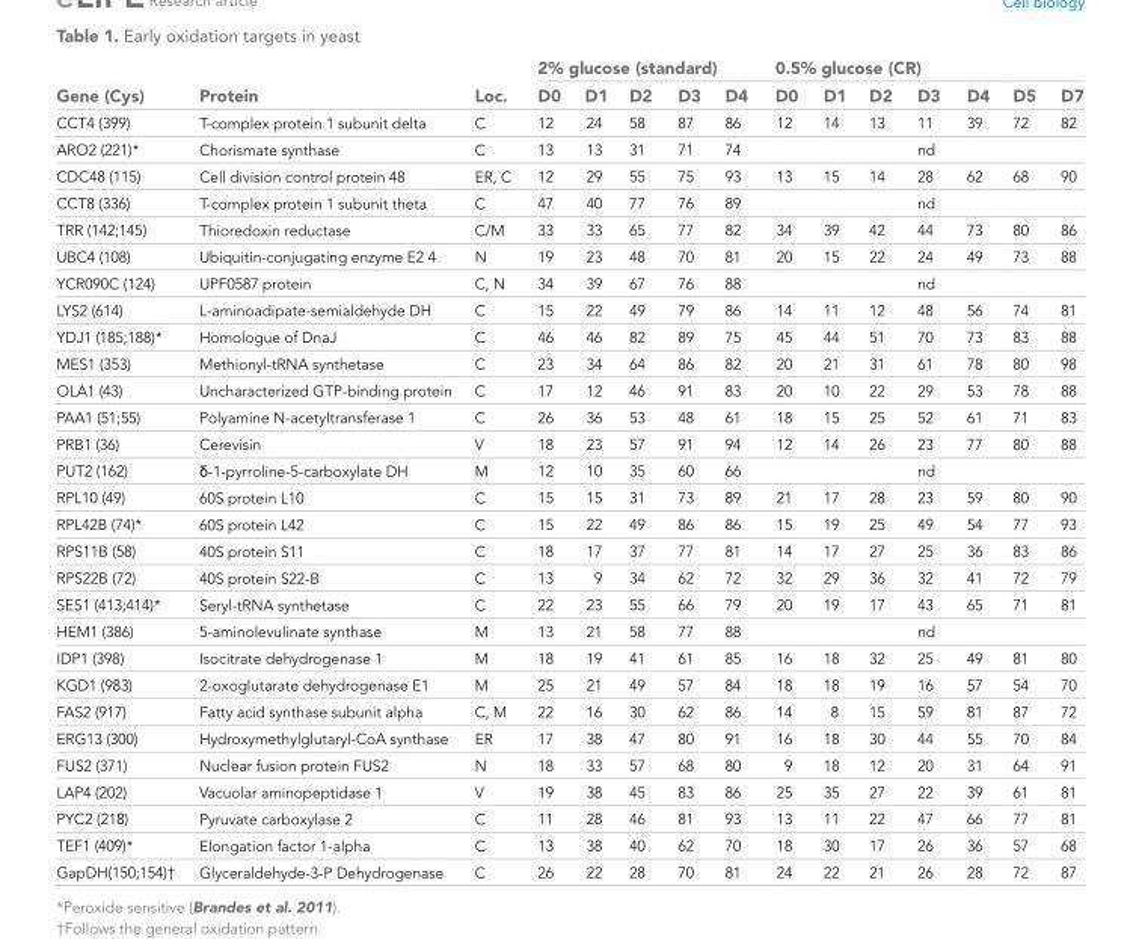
<table><thead><tr><td rowspan="2">Gene (Cys)</td><td rowspan="2">Protein</td><td rowspan="2">Loc.</td><td colspan="5">2% glucose (standard)</td><td colspan="7">0.5% glucose (CR)</td></tr><tr><td>D0</td><td>D1</td><td>D2</td><td>D3</td><td>D4</td><td>D0</td><td>D1</td><td>D2</td><td>D3</td><td>D4</td><td>D5</td><td>D7</td></tr></thead><tbody><tr><td>CCT4 (399)</td><td>T-complex protein 1 subunit delta</td><td>C</td><td>12</td><td>24</td><td>58</td><td>87</td><td>86</td><td>12</td><td>14</td><td>13</td><td>11</td><td>39</td><td>72</td><td>82</td></tr><tr><td>ARO2 (221)*</td><td>Chorismate synthase</td><td>C</td><td>13</td><td>13</td><td>31</td><td>71</td><td>74</td><td></td><td></td><td></td><td>nd</td><td></td><td></td><td></td></tr><tr><td>CDC48 (115)</td><td>Cell division control protein 48</td><td>ER, C</td><td>12</td><td>29</td><td>55</td><td>75</td><td>93</td><td>13</td><td>15</td><td>14</td><td>28</td><td>62</td><td>68</td><td>90</td></tr><tr><td>CCT8 (336)</td><td>T-complex protein 1 subunit theta</td><td>C</td><td>47</td><td>40</td><td>77</td><td>76</td><td>89</td><td></td><td></td><td></td><td>nd</td><td></td><td></td><td></td></tr><tr><td>TRR (142;145)</td><td>Thioredoxin reductase</td><td>C/M</td><td>33</td><td>33</td><td>65</td><td>77</td><td>82</td><td>34</td><td>39</td><td>42</td><td>44</td><td>73</td><td>80</td><td>86</td></tr><tr><td>UBC4 (108)</td><td>Ubiquitin-conjugating enzyme E2 4</td><td>N</td><td>19</td><td>23</td><td>48</td><td>70</td><td>81</td><td>20</td><td>15</td><td>22</td><td>24</td><td>49</td><td>73</td><td>88</td></tr><tr><td>YCR090C (124)</td><td>UPF0587 protein</td><td>C, N</td><td>34</td><td>39</td><td>67</td><td>76</td><td>88</td><td></td><td></td><td></td><td>nd</td><td></td><td></td><td></td></tr><tr><td>LYS2 (614)</td><td>L-aminoadipate-semialdehyde DH</td><td>C</td><td>15</td><td>22</td><td>49</td><td>79</td><td>86</td><td>14</td><td>11</td><td>12</td><td>48</td><td>56</td><td>74</td><td>81</td></tr><tr><td>YDJ1 (185;188)*</td><td>Homologue of DnaJ</td><td>C</td><td>46</td><td>46</td><td>82</td><td>89</td><td>75</td><td>45</td><td>44</td><td>51</td><td>70</td><td>73</td><td>83</td><td>88</td></tr><tr><td>MES1 (353)</td><td>Methionyl-tRNA synthetase</td><td>C</td><td>23</td><td>34</td><td>64</td><td>86</td><td>82</td><td>20</td><td>21</td><td>31</td><td>61</td><td>78</td><td>80</td><td>98</td></tr><tr><td>OLA1 (43)</td><td>Uncharacterized GTP-binding protein</td><td>C</td><td>17</td><td>12</td><td>46</td><td>91</td><td>83</td><td>20</td><td>10</td><td>22</td><td>29</td><td>53</td><td>78</td><td>88</td></tr><tr><td>PAA1 (51;55)</td><td>Polyamine N-acetyltransferase 1</td><td>C</td><td>26</td><td>36</td><td>53</td><td>48</td><td>61</td><td>18</td><td>15</td><td>25</td><td>52</td><td>61</td><td>71</td><td>83</td></tr><tr><td>PRB1 (36)</td><td>Cerevisin</td><td>V</td><td>18</td><td>23</td><td>57</td><td>91</td><td>94</td><td>12</td><td>14</td><td>26</td><td>23</td><td>77</td><td>80</td><td>88</td></tr><tr><td>PUT2 (162)</td><td>δ-1-pyrroline-5-carboxylate DH</td><td>M</td><td>12</td><td>10</td><td>35</td><td>60</td><td>66</td><td></td><td></td><td></td><td>nd</td><td></td><td></td><td></td></tr><tr><td>RPL10 (49)</td><td>60S protein L10</td><td>C</td><td>15</td><td>15</td><td>31</td><td>73</td><td>89</td><td>21</td><td>17</td><td>28</td><td>23</td><td>59</td><td>80</td><td>90</td></tr><tr><td>RPL42B (74)*</td><td>60S protein L42</td><td>C</td><td>15</td><td>22</td><td>49</td><td>86</td><td>86</td><td>15</td><td>19</td><td>25</td><td>49</td><td>54</td><td>77</td><td>93</td></tr><tr><td>RPS11B (58)</td><td>40S protein S11</td><td>C</td><td>18</td><td>17</td><td>37</td><td>77</td><td>81</td><td>14</td><td>17</td><td>27</td><td>25</td><td>36</td><td>83</td><td>86</td></tr><tr><td>RPS22B (72)</td><td>40S protein S22-B</td><td>C</td><td>13</td><td>9</td><td>34</td><td>62</td><td>72</td><td>32</td><td>29</td><td>36</td><td>32</td><td>41</td><td>72</td><td>79</td></tr><tr><td>SES1 (413;414)*</td><td>Seryl-tRNA synthetase</td><td>C</td><td>22</td><td>23</td><td>55</td><td>66</td><td>79</td><td>20</td><td>19</td><td>17</td><td>43</td><td>65</td><td>71</td><td>81</td></tr><tr><td>HEM1 (386)</td><td>5-aminolevulinate synthase</td><td>M</td><td>13</td><td>21</td><td>58</td><td>77</td><td>88</td><td></td><td></td><td></td><td>nd</td><td></td><td></td><td></td></tr><tr><td>IDP1 (398)</td><td>Isocitrate dehydrogenase 1</td><td>M</td><td>18</td><td>19</td><td>41</td><td>61</td><td>85</td><td>16</td><td>18</td><td>32</td><td>25</td><td>49</td><td>81</td><td>80</td></tr><tr><td>KGD1 (983)</td><td>2-oxoglutarate dehydrogenase E1</td><td>M</td><td>25</td><td>21</td><td>49</td><td>57</td><td>84</td><td>18</td><td>18</td><td>19</td><td>16</td><td>57</td><td>54</td><td>70</td></tr><tr><td>FAS2 (917)</td><td>Fatty acid synthase subunit alpha</td><td>C, M</td><td>22</td><td>16</td><td>30</td><td>62</td><td>86</td><td>14</td><td>8</td><td>15</td><td>59</td><td>81</td><td>87</td><td>72</td></tr><tr><td>ERG13 (300)</td><td>Hydroxymethylglutaryl-CoA synthase</td><td>ER</td><td>17</td><td>38</td><td>47</td><td>80</td><td>91</td><td>16</td><td>18</td><td>30</td><td>44</td><td>55</td><td>70</td><td>84</td></tr><tr><td>FUS2 (371)</td><td>Nuclear fusion protein FUS2</td><td>N</td><td>18</td><td>33</td><td>57</td><td>68</td><td>80</td><td>9</td><td>18</td><td>12</td><td>20</td><td>31</td><td>64</td><td>91</td></tr><tr><td>LAP4 (202)</td><td>Vacuolar aminopeptidase 1</td><td>V</td><td>19</td><td>38</td><td>45</td><td>83</td><td>86</td><td>25</td><td>35</td><td>27</td><td>22</td><td>39</td><td>61</td><td>81</td></tr><tr><td>PYC2 (218)</td><td>Pyruvate carboxylase 2</td><td>C</td><td>11</td><td>28</td><td>46</td><td>81</td><td>93</td><td>13</td><td>11</td><td>22</td><td>47</td><td>66</td><td>77</td><td>81</td></tr><tr><td>TEF1 (409)*</td><td>Elongation factor 1-alpha</td><td>C</td><td>13</td><td>38</td><td>40</td><td>62</td><td>70</td><td>18</td><td>30</td><td>17</td><td>26</td><td>36</td><td>57</td><td>68</td></tr><tr><td>GapDH(150;154)†</td><td>Glyceraldehyde-3-P Dehydrogenase</td><td>C</td><td>26</td><td>22</td><td>28</td><td>70</td><td>81</td><td>24</td><td>22</td><td>21</td><td>26</td><td>28</td><td>72</td><td>87</td></tr></tbody></table>